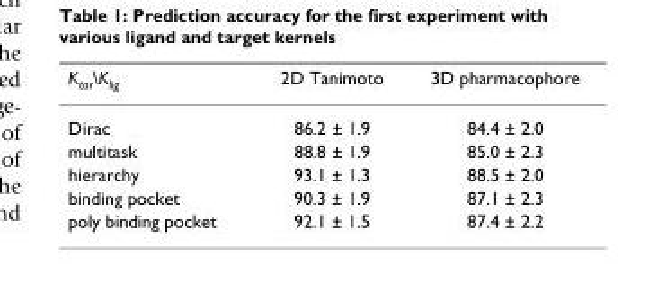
<table><thead><tr><td>K<sub>tar</sub>\K<sub>lig</sub></td><td>2D Tanimoto</td><td>3D pharmacophore</td></tr></thead><tbody><tr><td>Dirac</td><td>86.2 ± 1.9</td><td>84.4 ± 2.0</td></tr><tr><td>multitask</td><td>88.8 ± 1.9</td><td>85.0 ± 2.3</td></tr><tr><td>hierarchy</td><td>93.1 ± 1.3</td><td>88.5 ± 2.0</td></tr><tr><td>binding pocket</td><td>90.3 ± 1.9</td><td>87.1 ± 2.3</td></tr><tr><td>poly binding pocket</td><td>92.1 ± 1.5</td><td>87.4 ± 2.2</td></tr></tbody></table>